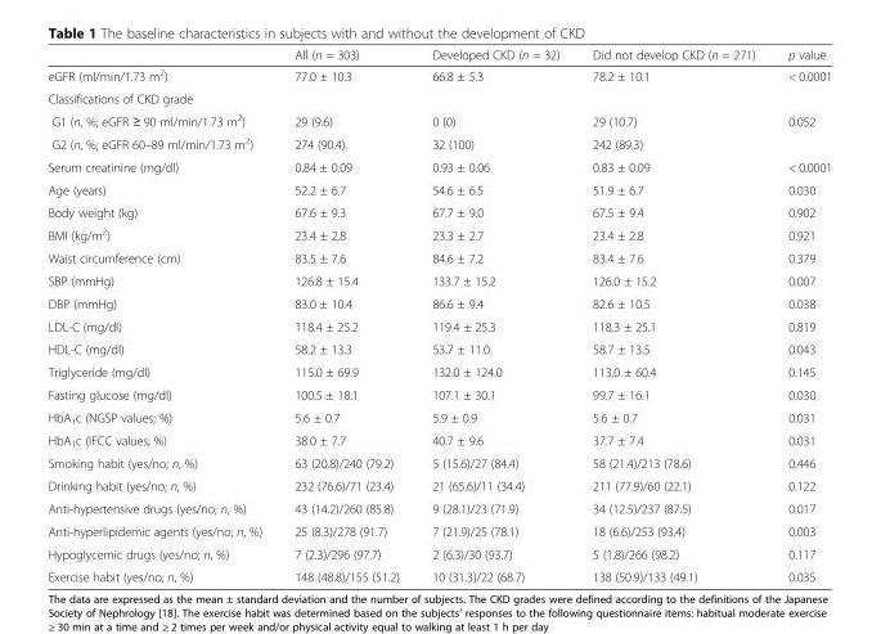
<table><thead><tr><td></td><td>All (n = 303)</td><td>Developed CKD (n = 32)</td><td>Did not develop CKD (n = 271)</td><td>p value</td></tr></thead><tbody><tr><td>eGFR (ml/min/1.73 m<sup>2</sup>)</td><td>77.0 ± 10.3</td><td>66.8 ± 5.3</td><td>78.2 ± 10.1</td><td>&lt; 0.0001</td></tr><tr><td colspan="5">Classifications of CKD grade</td></tr><tr><td>G1 (n, %; eGFR ≥ 90 ml/min/1.73 m<sup>2</sup>)</td><td>29 (9.6)</td><td>0 (0)</td><td>29 (10.7)</td><td>0.052</td></tr><tr><td>G2 (n, %; eGFR 60–89 ml/min/1.73 m<sup>2</sup>)</td><td>274 (90.4)</td><td>32 (100)</td><td>242 (89.3)</td><td></td></tr><tr><td>Serum creatinine (mg/dl)</td><td>0.84 ± 0.09</td><td>0.93 ± 0.06</td><td>0.83 ± 0.09</td><td>&lt; 0.0001</td></tr><tr><td>Age (years)</td><td>52.2 ± 6.7</td><td>54.6 ± 6.5</td><td>51.9 ± 6.7</td><td>0.030</td></tr><tr><td>Body weight (kg)</td><td>67.6 ± 9.3</td><td>67.7 ± 9.0</td><td>67.5 ± 9.4</td><td>0.902</td></tr><tr><td>BMI (kg/m<sup>2</sup>)</td><td>23.4 ± 2.8</td><td>23.3 ± 2.7</td><td>23.4 ± 2.8</td><td>0.921</td></tr><tr><td>Waist circumference (cm)</td><td>83.5 ± 7.6</td><td>84.6 ± 7.2</td><td>83.4 ± 7.6</td><td>0.379</td></tr><tr><td>SBP (mmHg)</td><td>126.8 ± 15.4</td><td>133.7 ± 15.2</td><td>126.0 ± 15.2</td><td>0.007</td></tr><tr><td>DBP (mmHg)</td><td>83.0 ± 10.4</td><td>86.6 ± 9.4</td><td>82.6 ± 10.5</td><td>0.038</td></tr><tr><td>LDL-C (mg/dl)</td><td>118.4 ± 25.2</td><td>119.4 ± 25.3</td><td>118.3 ± 25.1</td><td>0.819</td></tr><tr><td>HDL-C (mg/dl)</td><td>58.2 ± 13.3</td><td>53.7 ± 11.0</td><td>58.7 ± 13.5</td><td>0.043</td></tr><tr><td>Triglyceride (mg/dl)</td><td>115.0 ± 69.9</td><td>132.0 ± 124.0</td><td>113.0 ± 60.4</td><td>0.145</td></tr><tr><td>Fasting glucose (mg/dl)</td><td>100.5 ± 18.1</td><td>107.1 ± 30.1</td><td>99.7 ± 16.1</td><td>0.030</td></tr><tr><td>HbA<sub>1</sub>c (NGSP values; %)</td><td>5.6 ± 0.7</td><td>5.9 ± 0.9</td><td>5.6 ± 0.7</td><td>0.031</td></tr><tr><td>HbA<sub>1</sub>c (IFCC values; %)</td><td>38.0 ± 7.7</td><td>40.7 ± 9.6</td><td>37.7 ± 7.4</td><td>0.031</td></tr><tr><td>Smoking habit (yes/no; n, %)</td><td>63 (20.8)/240 (79.2)</td><td>5 (15.6)/27 (84.4)</td><td>58 (21.4)/213 (78.6)</td><td>0.446</td></tr><tr><td>Drinking habit (yes/no; n, %)</td><td>232 (76.6)/71 (23.4)</td><td>21 (65.6)/11 (34.4)</td><td>211 (77.9)/60 (22.1)</td><td>0.122</td></tr><tr><td>Anti-hypertensive drugs (yes/no; n, %)</td><td>43 (14.2)/260 (85.8)</td><td>9 (28.1)/23 (71.9)</td><td>34 (12.5)/237 (87.5)</td><td>0.017</td></tr><tr><td>Anti-hyperlipidemic agents (yes/no; n, %)</td><td>25 (8.3)/278 (91.7)</td><td>7 (21.9)/25 (78.1)</td><td>18 (6.6)/253 (93.4)</td><td>0.003</td></tr><tr><td>Hypoglycemic drugs (yes/no; n, %)</td><td>7 (2.3)/296 (97.7)</td><td>2 (6.3)/30 (93.7)</td><td>5 (1.8)/266 (98.2)</td><td>0.117</td></tr><tr><td>Exercise habit (yes/no; n, %)</td><td>148 (48.8)/155 (51.2)</td><td>10 (31.3)/22 (68.7)</td><td>138 (50.9)/133 (49.1)</td><td>0.035</td></tr></tbody></table>